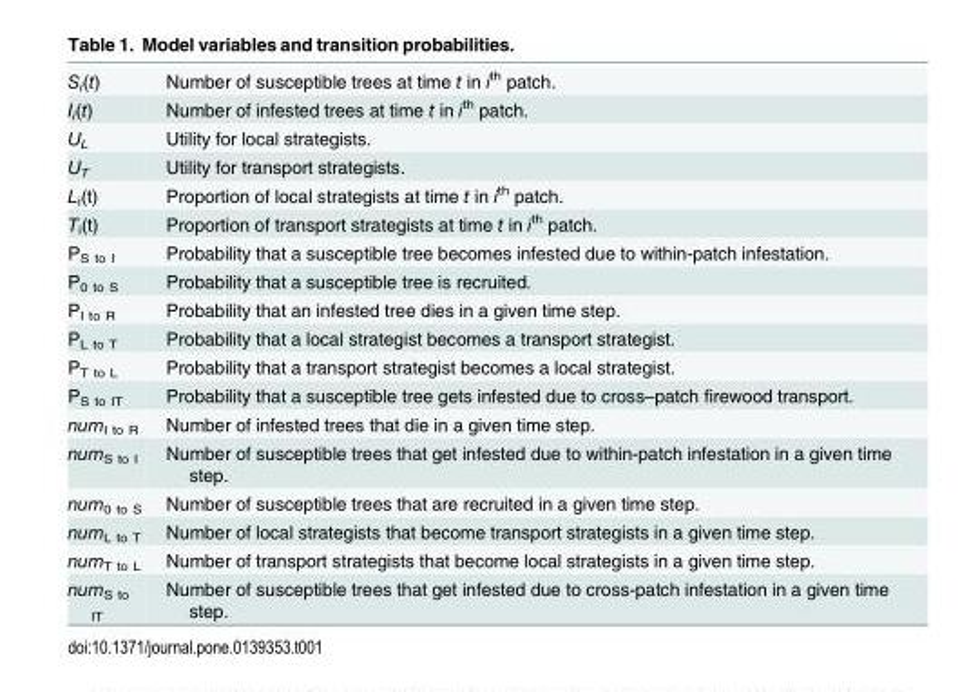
<table><tbody><tr><td>S<sub>i</sub>(t)</td><td>Number of susceptible trees at time t in i<sup>th</sup> patch.</td></tr><tr><td>I<sub>i</sub>(t)</td><td>Number of infested trees at time t in i<sup>th</sup> patch.</td></tr><tr><td>U<sub>L</sub></td><td>Utility for local strategists.</td></tr><tr><td>U<sub>T</sub></td><td>Utility for transport strategists.</td></tr><tr><td>L<sub>i</sub>(t)</td><td>Proportion of local strategists at time t in i<sup>th</sup> patch.</td></tr><tr><td>T<sub>i</sub>(t)</td><td>Proportion of transport strategists at time t in i<sup>th</sup> patch.</td></tr><tr><td>P<sub>S to I</sub></td><td>Probability that a susceptible tree becomes infested due to within-patch infestation.</td></tr><tr><td>P<sub>0 to S</sub></td><td>Probability that a susceptible tree is recruited.</td></tr><tr><td>P<sub>I to R</sub></td><td>Probability that an infested tree dies in a given time step.</td></tr><tr><td>P<sub>L to T</sub></td><td>Probability that a local strategist becomes a transport strategist.</td></tr><tr><td>P<sub>T to L</sub></td><td>Probability that a transport strategist becomes a local strategist.</td></tr><tr><td>P<sub>S to IT</sub></td><td>Probability that a susceptible tree gets infested due to cross–patch firewood transport.</td></tr><tr><td>num<sub>I to R</sub></td><td>Number of infested trees that die in a given time step.</td></tr><tr><td>num<sub>S to I</sub></td><td>Number of susceptible trees that get infested due to within-patch infestation in a given time step.</td></tr><tr><td>num<sub>0 to S</sub></td><td>Number of susceptible trees that are recruited in a given time step.</td></tr><tr><td>num<sub>L to T</sub></td><td>Number of local strategists that become transport strategists in a given time step.</td></tr><tr><td>num<sub>T to L</sub></td><td>Number of transport strategists that become local strategists in a given time step.</td></tr><tr><td>num<sub>S to IT</sub></td><td>Number of susceptible trees that get infested due to cross-patch infestation in a given time step.</td></tr></tbody></table>